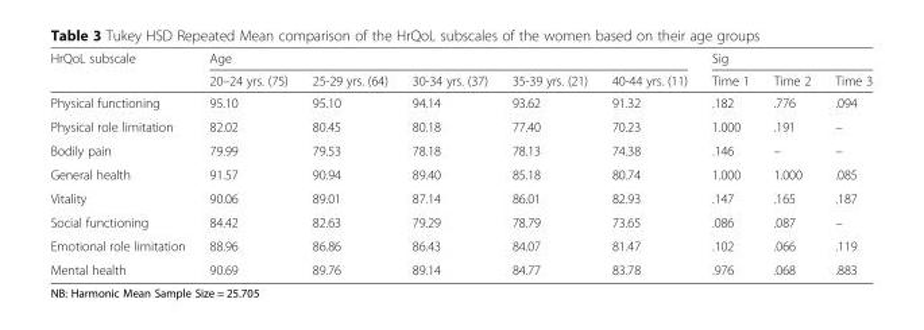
<table><thead><tr><td rowspan="2">HrQoL subscale</td><td colspan="5">Age</td><td colspan="3">Sig</td></tr><tr><td>20–24 yrs. (75)</td><td>25-29 yrs. (64)</td><td>30-34 yrs. (37)</td><td>35-39 yrs. (21)</td><td>40-44 yrs. (11)</td><td>Time 1</td><td>Time 2</td><td>Time 3</td></tr></thead><tbody><tr><td>Physical functioning</td><td>95.10</td><td>95.10</td><td>94.14</td><td>93.62</td><td>91.32</td><td>.182</td><td>.776</td><td>.094</td></tr><tr><td>Physical role limitation</td><td>82.02</td><td>80.45</td><td>80.18</td><td>77.40</td><td>70.23</td><td>1.000</td><td>.191</td><td>–</td></tr><tr><td>Bodily pain</td><td>79.99</td><td>79.53</td><td>78.18</td><td>78.13</td><td>74.38</td><td>.146</td><td>–</td><td>–</td></tr><tr><td>General health</td><td>91.57</td><td>90.94</td><td>89.40</td><td>85.18</td><td>80.74</td><td>1.000</td><td>1.000</td><td>.085</td></tr><tr><td>Vitality</td><td>90.06</td><td>89.01</td><td>87.14</td><td>86.01</td><td>82.93</td><td>.147</td><td>.165</td><td>.187</td></tr><tr><td>Social functioning</td><td>84.42</td><td>82.63</td><td>79.29</td><td>78.79</td><td>73.65</td><td>.086</td><td>.087</td><td>–</td></tr><tr><td>Emotional role limitation</td><td>88.96</td><td>86.86</td><td>86.43</td><td>84.07</td><td>81.47</td><td>.102</td><td>.066</td><td>.119</td></tr><tr><td>Mental health</td><td>90.69</td><td>89.76</td><td>89.14</td><td>84.77</td><td>83.78</td><td>.976</td><td>.068</td><td>.883</td></tr></tbody></table>